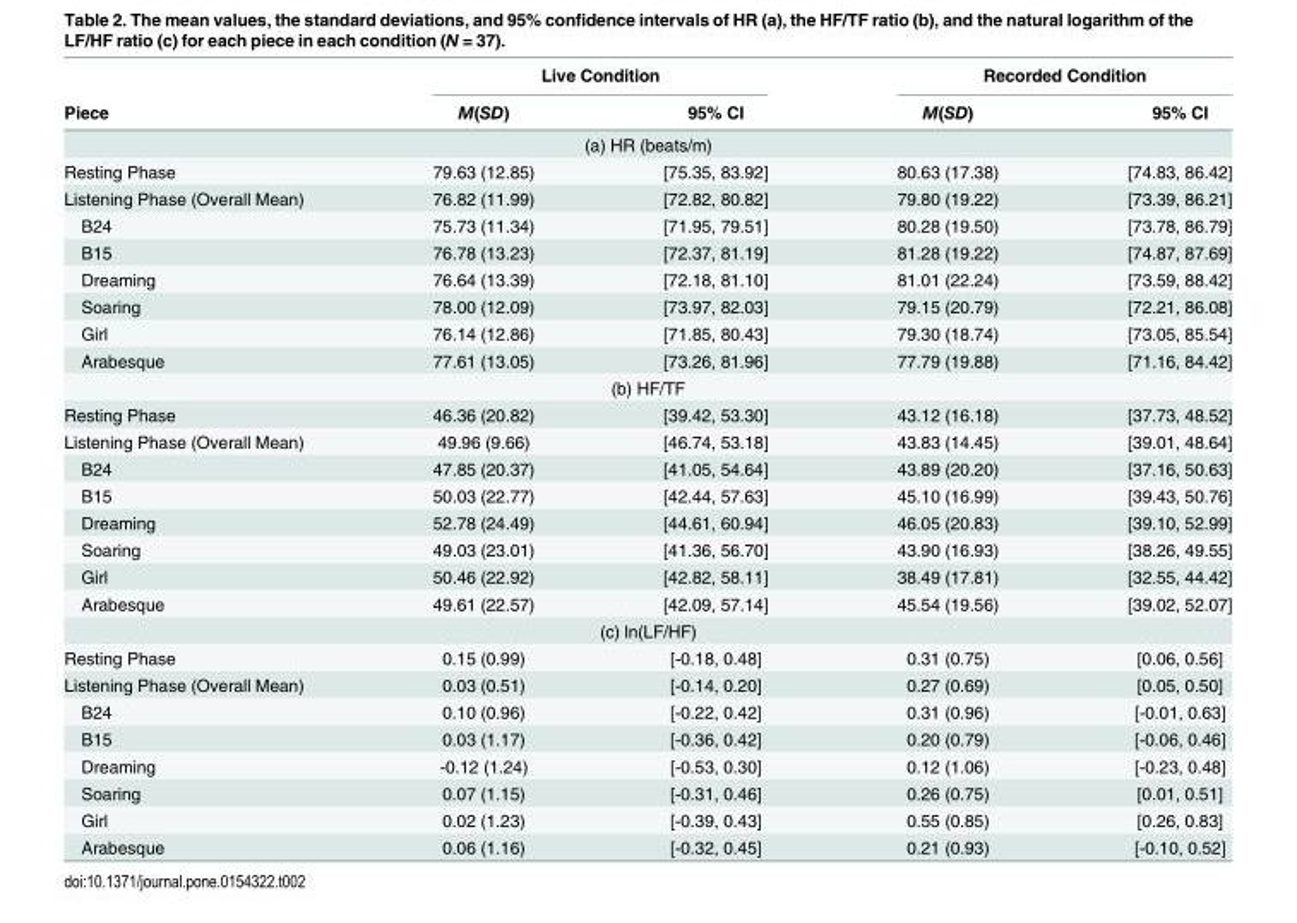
<table><thead><tr><td rowspan="2">Piece</td><td colspan="2">Live Condition</td><td colspan="2">Recorded Condition</td></tr><tr><td>M(SD)</td><td>95% CI</td><td>M(SD)</td><td>95% CI</td></tr></thead><tbody><tr><td colspan="5">(a) HR (beats/m)</td></tr><tr><td>Resting Phase</td><td>79.63 (12.85)</td><td>[75.35, 83.92]</td><td>80.63 (17.38)</td><td>[74.83, 86.42]</td></tr><tr><td>Listening Phase (Overall Mean)</td><td>76.82 (11.99)</td><td>[72.82, 80.82]</td><td>79.80 (19.22)</td><td>[73.39, 86.21]</td></tr><tr><td>B24</td><td>75.73 (11.34)</td><td>[71.95, 79.51]</td><td>80.28 (19.50)</td><td>[73.78, 86.79]</td></tr><tr><td>B15</td><td>76.78 (13.23)</td><td>[72.37, 81.19]</td><td>81.28 (19.22)</td><td>[74.87, 87.69]</td></tr><tr><td>Dreaming</td><td>76.64 (13.39)</td><td>[72.18, 81.10]</td><td>81.01 (22.24)</td><td>[73.59, 88.42]</td></tr><tr><td>Soaring</td><td>78.00 (12.09)</td><td>[73.97, 82.03]</td><td>79.15 (20.79)</td><td>[72.21, 86.08]</td></tr><tr><td>Girl</td><td>76.14 (12.86)</td><td>[71.85, 80.43]</td><td>79.30 (18.74)</td><td>[73.05, 85.54]</td></tr><tr><td>Arabesque</td><td>77.61 (13.05)</td><td>[73.26, 81.96]</td><td>77.79 (19.88)</td><td>[71.16, 84.42]</td></tr><tr><td colspan="5">(b) HF/TF</td></tr><tr><td>Resting Phase</td><td>46.36 (20.82)</td><td>[39.42, 53.30]</td><td>43.12 (16.18)</td><td>[37.73, 48.52]</td></tr><tr><td>Listening Phase (Overall Mean)</td><td>49.96 (9.66)</td><td>[46.74, 53.18]</td><td>43.83 (14.45)</td><td>[39.01, 48.64]</td></tr><tr><td>B24</td><td>47.85 (20.37)</td><td>[41.05, 54.64]</td><td>43.89 (20.20)</td><td>[37.16, 50.63]</td></tr><tr><td>B15</td><td>50.03 (22.77)</td><td>[42.44, 57.63]</td><td>45.10 (16.99)</td><td>[39.43, 50.76]</td></tr><tr><td>Dreaming</td><td>52.78 (24.49)</td><td>[44.61, 60.94]</td><td>46.05 (20.83)</td><td>[39.10, 52.99]</td></tr><tr><td>Soaring</td><td>49.03 (23.01)</td><td>[41.36, 56.70]</td><td>43.90 (16.93)</td><td>[38.26, 49.55]</td></tr><tr><td>Girl</td><td>50.46 (22.92)</td><td>[42.82, 58.11]</td><td>38.49 (17.81)</td><td>[32.55, 44.42]</td></tr><tr><td>Arabesque</td><td>49.61 (22.57)</td><td>[42.09, 57.14]</td><td>45.54 (19.56)</td><td>[39.02, 52.07]</td></tr><tr><td colspan="5">(c) ln(LF/HF)</td></tr><tr><td>Resting Phase</td><td>0.15 (0.99)</td><td>[-0.18, 0.48]</td><td>0.31 (0.75)</td><td>[0.06, 0.56]</td></tr><tr><td>Listening Phase (Overall Mean)</td><td>0.03 (0.51)</td><td>[-0.14, 0.20]</td><td>0.27 (0.69)</td><td>[0.05, 0.50]</td></tr><tr><td>B24</td><td>0.10 (0.96)</td><td>[-0.22, 0.42]</td><td>0.31 (0.96)</td><td>[-0.01, 0.63]</td></tr><tr><td>B15</td><td>0.03 (1.17)</td><td>[-0.36, 0.42]</td><td>0.20 (0.79)</td><td>[-0.06, 0.46]</td></tr><tr><td>Dreaming</td><td>-0.12 (1.24)</td><td>[-0.53, 0.30]</td><td>0.12 (1.06)</td><td>[-0.23, 0.48]</td></tr><tr><td>Soaring</td><td>0.07 (1.15)</td><td>[-0.31, 0.46]</td><td>0.26 (0.75)</td><td>[0.01, 0.51]</td></tr><tr><td>Girl</td><td>0.02 (1.23)</td><td>[-0.39, 0.43]</td><td>0.55 (0.85)</td><td>[0.26, 0.83]</td></tr><tr><td>Arabesque</td><td>0.06 (1.16)</td><td>[-0.32, 0.45]</td><td>0.21 (0.93)</td><td>[-0.10, 0.52]</td></tr></tbody></table>